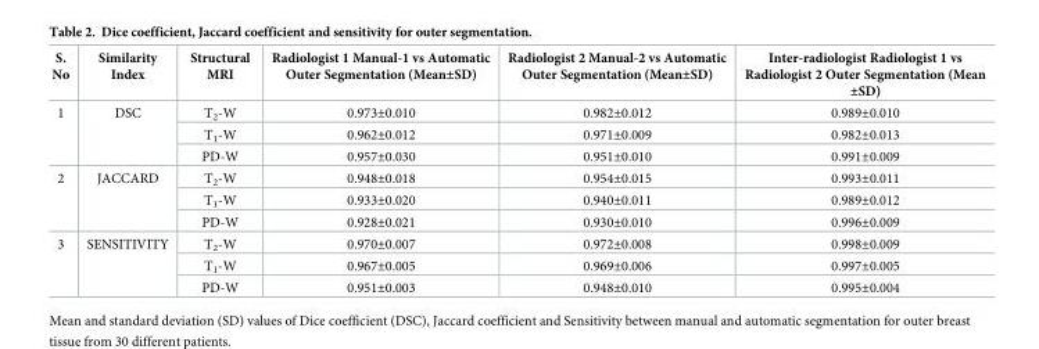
<table><thead><tr><td>S. No</td><td>Similarity Index</td><td>Structural MRI</td><td>Radiologist 1 Manual-1 vs Automatic Outer Segmentation (Mean±SD)</td><td>Radiologist 2 Manual-2 vs Automatic Outer Segmentation (Mean±SD)</td><td>Inter-radiologist Radiologist 1 vs Radiologist 2 Outer Segmentation (Mean ±SD)</td></tr></thead><tbody><tr><td rowspan="3">1</td><td rowspan="3">DSC</td><td>T<sub>2</sub>-W</td><td>0.973±0.010</td><td>0.982±0.012</td><td>0.989±0.010</td></tr><tr><td>T<sub>1</sub>-W</td><td>0.962±0.012</td><td>0.971±0.009</td><td>0.982±0.013</td></tr><tr><td>PD-W</td><td>0.957±0.030</td><td>0.951±0.010</td><td>0.991±0.009</td></tr><tr><td rowspan="3">2</td><td rowspan="3">JACCARD</td><td>T<sub>2</sub>-W</td><td>0.948±0.018</td><td>0.954±0.015</td><td>0.993±0.011</td></tr><tr><td>T<sub>1</sub>-W</td><td>0.933±0.020</td><td>0.940±0.011</td><td>0.989±0.012</td></tr><tr><td>PD-W</td><td>0.928±0.021</td><td>0.930±0.010</td><td>0.996±0.009</td></tr><tr><td rowspan="3">3</td><td rowspan="3">SENSITIVITY</td><td>T<sub>2</sub>-W</td><td>0.970±0.007</td><td>0.972±0.008</td><td>0.998±0.009</td></tr><tr><td>T<sub>1</sub>-W</td><td>0.967±0.005</td><td>0.969±0.006</td><td>0.997±0.005</td></tr><tr><td>PD-W</td><td>0.951±0.003</td><td>0.948±0.010</td><td>0.995±0.004</td></tr></tbody></table>